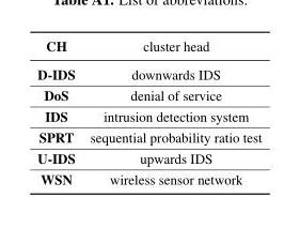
<table><tbody><tr><td>CH</td><td>cluster head</td></tr><tr><td>D-IDS</td><td>downwards IDS</td></tr><tr><td>DoS</td><td>denial of service</td></tr><tr><td>IDS</td><td>intrusion detection system</td></tr><tr><td>SPRT</td><td>sequential probability ratio test</td></tr><tr><td>U-IDS</td><td>upwards IDS</td></tr><tr><td>WSN</td><td>wireless sensor network</td></tr></tbody></table>